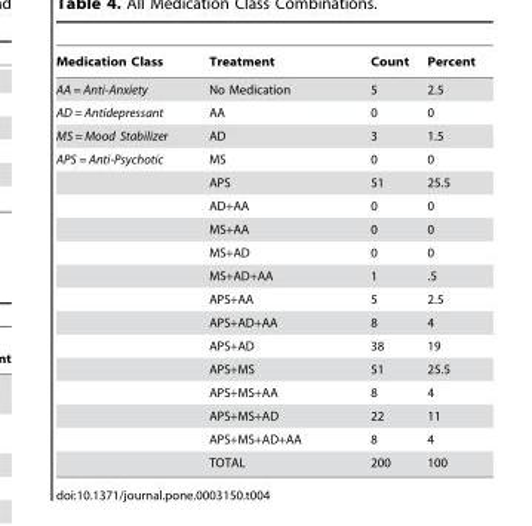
<table><thead><tr><td>Medication Class</td><td>Treatment</td><td>Count</td><td>Percent</td></tr></thead><tbody><tr><td>AA = Anti-Anxiety</td><td>No Medication</td><td>5</td><td>2.5</td></tr><tr><td>AD = Antidepressant</td><td>AA</td><td>0</td><td>0</td></tr><tr><td>MS = Mood Stabilizer</td><td>AD</td><td>3</td><td>1.5</td></tr><tr><td rowspan="14">APS = Anti-Psychotic</td><td>MS</td><td>0</td><td>0</td></tr><tr><td>APS</td><td>51</td><td>25.5</td></tr><tr><td>AD+AA</td><td>0</td><td>0</td></tr><tr><td>MS+AA</td><td>0</td><td>0</td></tr><tr><td>MS+AD</td><td>0</td><td>0</td></tr><tr><td>MS+AD+AA</td><td>1</td><td>.5</td></tr><tr><td>APS+AA</td><td>5</td><td>2.5</td></tr><tr><td>APS+AD+AA</td><td>8</td><td>4</td></tr><tr><td>APS+AD</td><td>38</td><td>19</td></tr><tr><td>APS+MS</td><td>51</td><td>25.5</td></tr><tr><td>APS+MS+AA</td><td>8</td><td>4</td></tr><tr><td>APS+MS+AD</td><td>22</td><td>11</td></tr><tr><td>APS+MS+AD+AA</td><td>8</td><td>4</td></tr><tr><td>TOTAL</td><td>200</td><td>100</td></tr></tbody></table>